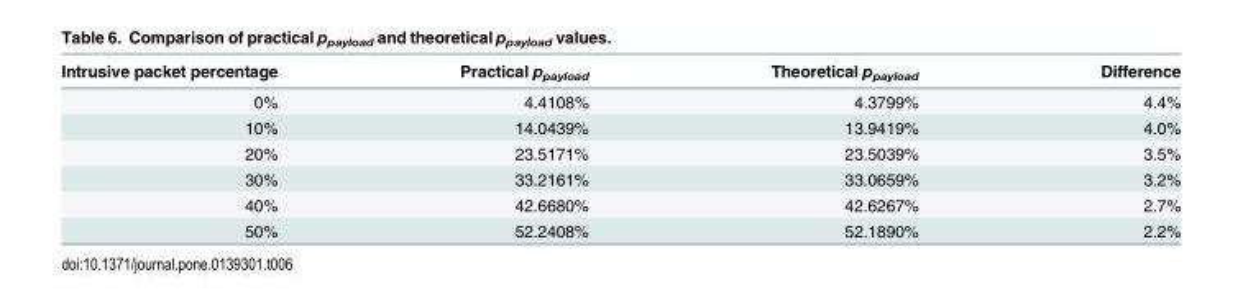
<table><thead><tr><td>Intrusive packet percentage</td><td>Practical p<sub>payload</sub></td><td>Theoretical p<sub>payload</sub></td><td>Difference</td></tr></thead><tbody><tr><td>0%</td><td>4.4108%</td><td>4.3799%</td><td>4.4%</td></tr><tr><td>10%</td><td>14.0439%</td><td>13.9419%</td><td>4.0%</td></tr><tr><td>20%</td><td>23.5171%</td><td>23.5039%</td><td>3.5%</td></tr><tr><td>30%</td><td>33.2161%</td><td>33.0659%</td><td>3.2%</td></tr><tr><td>40%</td><td>42.6680%</td><td>42.6267%</td><td>2.7%</td></tr><tr><td>50%</td><td>52.2408%</td><td>52.1890%</td><td>2.2%</td></tr></tbody></table>